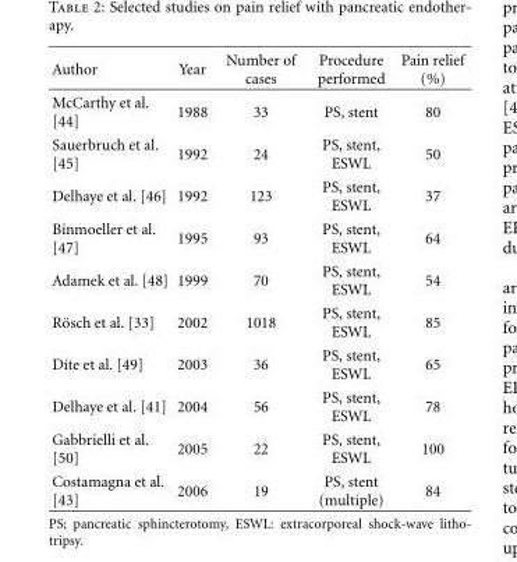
<table><thead><tr><td>Author</td><td>Year</td><td>Number of cases</td><td>Procedure performed</td><td>Pain relief (%)</td></tr></thead><tbody><tr><td>McCarthy et al. [44]</td><td>1988</td><td>33</td><td>PS, stent</td><td>80</td></tr><tr><td>Sauerbruch et al. [45]</td><td>1992</td><td>24</td><td>PS, stent, ESWL</td><td>50</td></tr><tr><td>Delhaye et al. [46]</td><td>1992</td><td>123</td><td>PS, stent, ESWL</td><td>37</td></tr><tr><td>Binmoeller et al. [47]</td><td>1995</td><td>93</td><td>PS, stent, ESWL</td><td>64</td></tr><tr><td>Adamek et al. [48]</td><td>1999</td><td>70</td><td>PS, stent, ESWL</td><td>54</td></tr><tr><td>R¨osch et al. [33]</td><td>2002</td><td>1018</td><td>PS, stent, ESWL</td><td>85</td></tr><tr><td>D´ıte et al. [49]</td><td>2003</td><td>36</td><td>PS, stent, ESWL</td><td>65</td></tr><tr><td>Delhaye et al. [41]</td><td>2004</td><td>56</td><td>PS, stent, ESWL</td><td>78</td></tr><tr><td>Gabbrielli et al. [50]</td><td>2005</td><td>22</td><td>PS, stent, ESWL</td><td>100</td></tr><tr><td>Costamagna et al. [43]</td><td>2006</td><td>19</td><td>PS, stent (multiple)</td><td>84</td></tr></tbody></table>